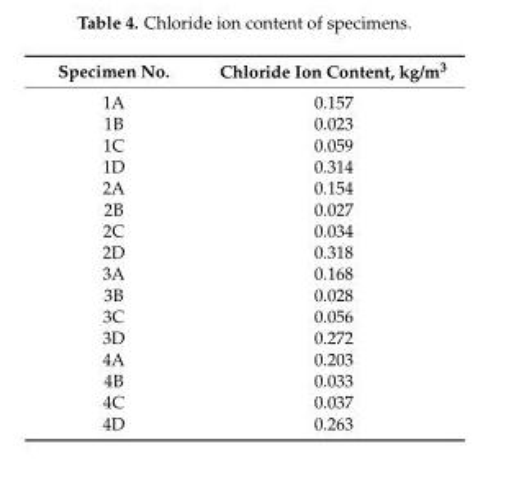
<table><thead><tr><td>Specimen No.</td><td>Chloride Ion Content, kg/m<sup>3</sup></td></tr></thead><tbody><tr><td>1A</td><td>0.157</td></tr><tr><td>1B</td><td>0.023</td></tr><tr><td>1C</td><td>0.059</td></tr><tr><td>1D</td><td>0.314</td></tr><tr><td>2A</td><td>0.154</td></tr><tr><td>2B</td><td>0.027</td></tr><tr><td>2C</td><td>0.034</td></tr><tr><td>2D</td><td>0.318</td></tr><tr><td>3A</td><td>0.168</td></tr><tr><td>3B</td><td>0.028</td></tr><tr><td>3C</td><td>0.056</td></tr><tr><td>3D</td><td>0.272</td></tr><tr><td>4A</td><td>0.203</td></tr><tr><td>4B</td><td>0.033</td></tr><tr><td>4C</td><td>0.037</td></tr><tr><td>4D</td><td>0.263</td></tr></tbody></table>